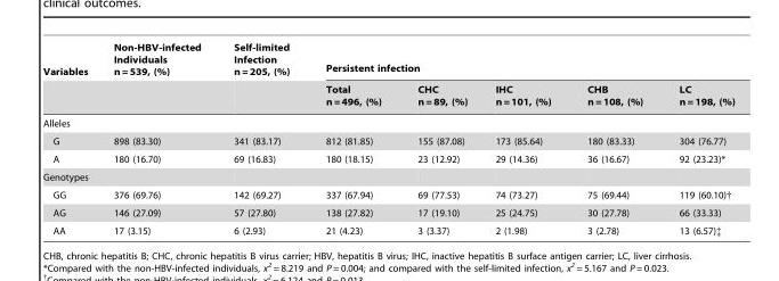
<table><thead><tr><td rowspan="2">Variables</td><td rowspan="2">Non-HBV-infected Individuals n = 539, (%)</td><td rowspan="2">Self-limited Infection n = 205, (%)</td><td colspan="5">Persistent infection</td></tr><tr><td>Total n = 496, (%)</td><td>CHC n = 89, (%)</td><td>IHC n = 101, (%)</td><td>CHB n = 108, (%)</td><td>LC n = 198, (%)</td></tr></thead><tbody><tr><td colspan="8">Alleles</td></tr><tr><td>G</td><td>898 (83.30)</td><td>341 (83.17)</td><td>812 (81.85)</td><td>155 (87.08)</td><td>173 (85.64)</td><td>180 (83.33)</td><td>304 (76.77)</td></tr><tr><td>A</td><td>180 (16.70)</td><td>69 (16.83)</td><td>180 (18.15)</td><td>23 (12.92)</td><td>29 (14.36)</td><td>36 (16.67)</td><td>92 (23.23)*</td></tr><tr><td colspan="8">Genotypes</td></tr><tr><td>GG</td><td>376 (69.76)</td><td>142 (69.27)</td><td>337 (67.94)</td><td>69 (77.53)</td><td>74 (73.27)</td><td>75 (69.44)</td><td>119 (60.10)†</td></tr><tr><td>AG</td><td>146 (27.09)</td><td>57 (27.80)</td><td>138 (27.82)</td><td>17 (19.10)</td><td>25 (24.75)</td><td>30 (27.78)</td><td>66 (33.33)</td></tr><tr><td>AA</td><td>17 (3.15)</td><td>6 (2.93)</td><td>21 (4.23)</td><td>3 (3.37)</td><td>2 (1.98)</td><td>3 (2.78)</td><td>13 (6.57)‡</td></tr></tbody></table>